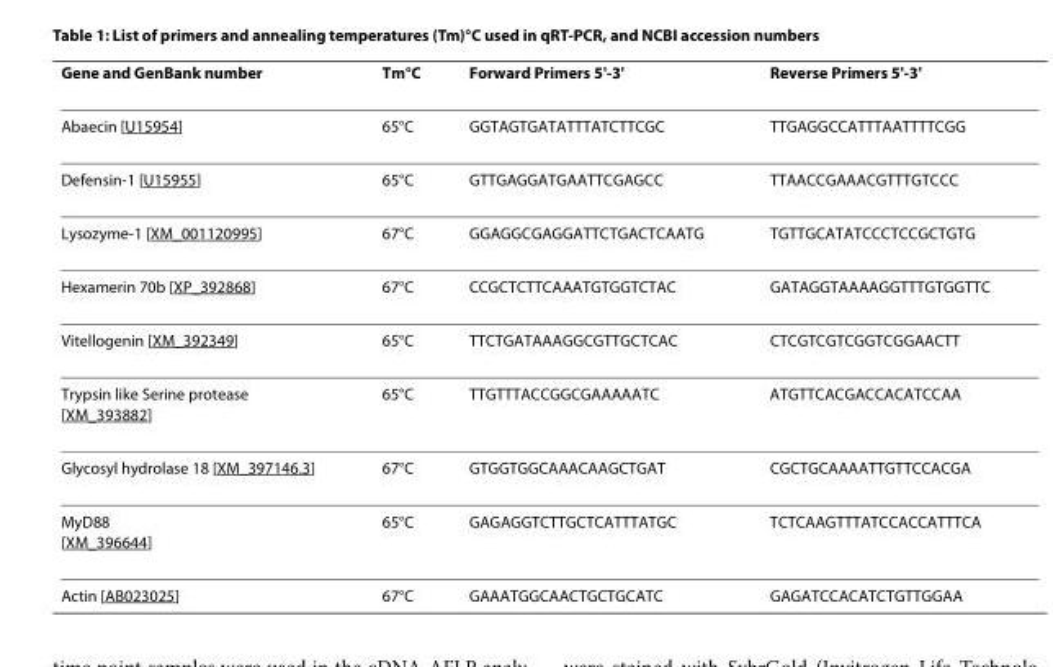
<table><thead><tr><td>Gene and GenBank number</td><td>Tm°C</td><td>Forward Primers 5&#x27;-3&#x27;</td><td>Reverse Primers 5&#x27;-3&#x27;</td></tr></thead><tbody><tr><td>Abaecin [U15954]</td><td>65°C</td><td>GGTAGTGATATTTATCTTCGC</td><td>TTGAGGCCATTTAATTTTCGG</td></tr><tr><td>Defensin-1 [U15955]</td><td>65°C</td><td>GTTGAGGATGAATTCGAGCC</td><td>TTAACCGAAACGTTTGTCCC</td></tr><tr><td>Lysozyme-1 [XM_001120995]</td><td>67°C</td><td>GGAGGCGAGGATTCTGACTCAATG</td><td>TGTTGCATATCCCTCCGCTGTG</td></tr><tr><td>Hexamerin 70b [XP_392868]</td><td>67°C</td><td>CCGCTCTTCAAATGTGGTCTAC</td><td>GATAGGTAAAAGGTTTGTGGTTC</td></tr><tr><td>Vitellogenin [XM_392349]</td><td>65°C</td><td>TTCTGATAAAGGCGTTGCTCAC</td><td>CTCGTCGTCGGTCGGAACTT</td></tr><tr><td>Trypsin like Serine protease [XM_393882]</td><td>65°C</td><td>TTGTTTACCGGCGAAAAATC</td><td>ATGTTCACGACCACATCCAA</td></tr><tr><td>Glycosyl hydrolase 18 [XM_397146.3]</td><td>67°C</td><td>GTGGTGGCAAACAAGCTGAT</td><td>CGCTGCAAAATTGTTCCACGA</td></tr><tr><td>MyD88 [XM_396644]</td><td>65°C</td><td>GAGAGGTCTTGCTCATTTATGC</td><td>TCTCAAGTTTATCCACCATTTCA</td></tr><tr><td>Actin [AB023025]</td><td>67°C</td><td>GAAATGGCAACTGCTGCATC</td><td>GAGATCCACATCTGTTGGAA</td></tr></tbody></table>